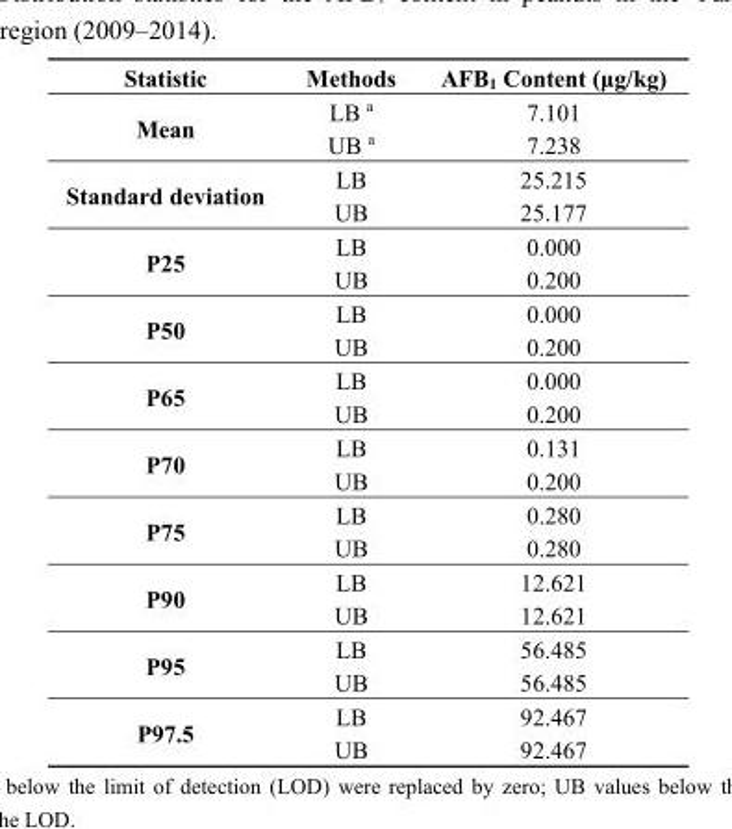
<table><thead><tr><td>Statistic</td><td>Methods</td><td>AFB<sub>1</sub> Content (μg/kg)</td></tr></thead><tbody><tr><td rowspan="2">Mean</td><td>LB <sup>a</sup></td><td>7.101</td></tr><tr><td>UB <sup>a</sup></td><td>7.238</td></tr><tr><td rowspan="2">Standard deviation</td><td>LB</td><td>25.215</td></tr><tr><td>UB</td><td>25.177</td></tr><tr><td rowspan="2">P25</td><td>LB</td><td>0.000</td></tr><tr><td>UB</td><td>0.200</td></tr><tr><td rowspan="2">P50</td><td>LB</td><td>0.000</td></tr><tr><td>UB</td><td>0.200</td></tr><tr><td rowspan="2">P65</td><td>LB</td><td>0.000</td></tr><tr><td>UB</td><td>0.200</td></tr><tr><td rowspan="2">P70</td><td>LB</td><td>0.131</td></tr><tr><td>UB</td><td>0.200</td></tr><tr><td rowspan="2">P75</td><td>LB</td><td>0.280</td></tr><tr><td>UB</td><td>0.280</td></tr><tr><td rowspan="2">P90</td><td>LB</td><td>12.621</td></tr><tr><td>UB</td><td>12.621</td></tr><tr><td rowspan="2">P95</td><td>LB</td><td>56.485</td></tr><tr><td>UB</td><td>56.485</td></tr><tr><td rowspan="2">P97.5</td><td>LB</td><td>92.467</td></tr><tr><td>UB</td><td>92.467</td></tr></tbody></table>